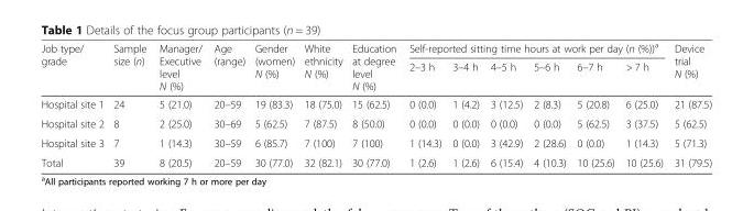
<table><thead><tr><td rowspan="2">Job type/ grade</td><td rowspan="2">Sample size (n)</td><td rowspan="2">Manager/ Executive level N (%)</td><td rowspan="2">Age (range)</td><td rowspan="2">Gender (women) N (%)</td><td rowspan="2">White ethnicity N (%)</td><td rowspan="2">Education at degree level N (%)</td><td colspan="6">Self-reported sitting time hours at work per day (n (%))<sup>a</sup></td><td rowspan="2">Device trial N (%)</td></tr><tr><td>2–3 h</td><td>3–4 h</td><td>4–5 h</td><td>5–6 h</td><td>6–7 h</td><td>&gt; 7 h</td></tr></thead><tbody><tr><td>Hospital site 1</td><td>24</td><td>5 (21.0)</td><td>20–59</td><td>19 (83.3)</td><td>18 (75.0)</td><td>15 (62.5)</td><td>0 (0.0)</td><td>1 (4.2)</td><td>3 (12.5)</td><td>2 (8.3)</td><td>5 (20.8)</td><td>6 (25.0)</td><td>21 (87.5)</td></tr><tr><td>Hospital site 2</td><td>8</td><td>2 (25.0)</td><td>30–69</td><td>5 (62.5)</td><td>7 (87.5)</td><td>8 (50.0)</td><td>0 (0.0)</td><td>0 (0.0)</td><td>0 (0.0)</td><td>0 (0.0)</td><td>5 (62.5)</td><td>3 (37.5)</td><td>5 (62.5)</td></tr><tr><td>Hospital site 3</td><td>7</td><td>1 (14.3)</td><td>30–59</td><td>6 (85.7)</td><td>7 (100)</td><td>7 (100)</td><td>1 (14.3)</td><td>0 (0.0)</td><td>3 (42.9)</td><td>2 (28.6)</td><td>0 (0.0)</td><td>1 (14.3)</td><td>5 (71.3)</td></tr><tr><td>Total</td><td>39</td><td>8 (20.5)</td><td>20–59</td><td>30 (77.0)</td><td>32 (82.1)</td><td>30 (77.0)</td><td>1 (2.6)</td><td>1 (2.6)</td><td>6 (15.4)</td><td>4 (10.3)</td><td>10 (25.6)</td><td>10 (25.6)</td><td>31 (79.5)</td></tr></tbody></table>